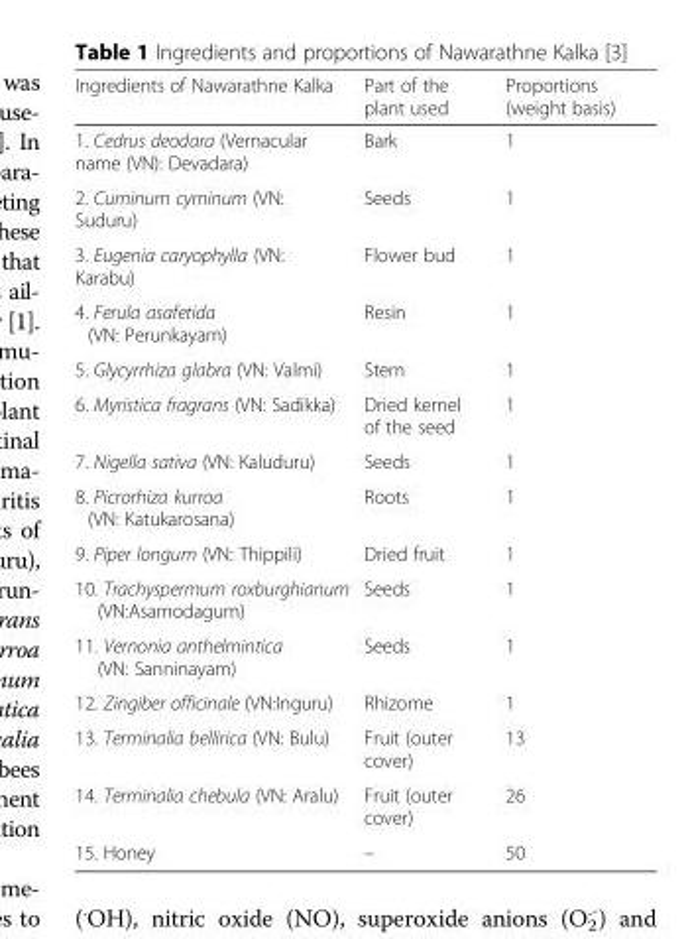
<table><thead><tr><td>Ingredients of Nawarathne Kalka</td><td>Part of the plant used</td><td>Proportions (weight basis)</td></tr></thead><tbody><tr><td>1. Cedrus deodara (Vernacular name (VN): Devadara)</td><td>Bark</td><td>1</td></tr><tr><td>2. Cuminum cyminum (VN: Suduru)</td><td>Seeds</td><td>1</td></tr><tr><td>3. Eugenia caryophylla (VN: Karabu)</td><td>Flower bud</td><td>1</td></tr><tr><td>4. Ferula asafetida (VN: Perunkayam)</td><td>Resin</td><td>1</td></tr><tr><td>5. Glycyrrhiza glabra (VN: Valmi)</td><td>Stem</td><td>1</td></tr><tr><td>6. Myristica fragrans (VN: Sadikka)</td><td>Dried kernel of the seed</td><td>1</td></tr><tr><td>7. Nigella sativa (VN: Kaluduru)</td><td>Seeds</td><td>1</td></tr><tr><td>8. Picrorhiza kurroa (VN: Katukarosana)</td><td>Roots</td><td>1</td></tr><tr><td>9. Piper longum (VN: Thippili)</td><td>Dried fruit</td><td>1</td></tr><tr><td>10. Trachyspermum roxburghianum (VN:Asamodagum)</td><td>Seeds</td><td>1</td></tr><tr><td>11. Vernonia anthelmintica (VN: Sanninayam)</td><td>Seeds</td><td>1</td></tr><tr><td>12. Zingiber officinale (VN:Inguru)</td><td>Rhizome</td><td>1</td></tr><tr><td>13. Terminalia bellirica (VN: Bulu)</td><td>Fruit (outer cover)</td><td>13</td></tr><tr><td>14. Terminalia chebula (VN: Aralu)</td><td>Fruit (outer cover)</td><td>26</td></tr><tr><td>15. Honey</td><td>–</td><td>50</td></tr></tbody></table>